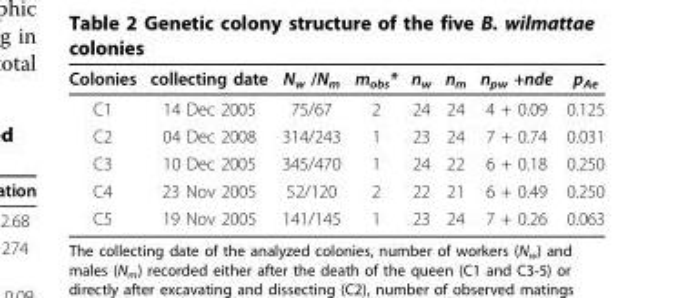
<table><thead><tr><td>Colonies</td><td>collecting date</td><td>N<sub>w</sub> /N<sub>m</sub></td><td>m<sub>obs</sub>*</td><td>n<sub>w</sub></td><td>n<sub>m</sub></td><td>n<sub>pw</sub> +nde</td><td>p<sub>Ae</sub></td></tr></thead><tbody><tr><td>C1</td><td>14 Dec 2005</td><td>75/67</td><td>2</td><td>24</td><td>24</td><td>4 + 0.09</td><td>0.125</td></tr><tr><td>C2</td><td>04 Dec 2008</td><td>314/243</td><td>1</td><td>23</td><td>24</td><td>7 + 0.74</td><td>0.031</td></tr><tr><td>C3</td><td>10 Dec 2005</td><td>345/470</td><td>1</td><td>24</td><td>22</td><td>6 + 0.18</td><td>0.250</td></tr><tr><td>C4</td><td>23 Nov 2005</td><td>52/120</td><td>2</td><td>22</td><td>21</td><td>6 + 0.49</td><td>0.250</td></tr><tr><td>C5</td><td>19 Nov 2005</td><td>141/145</td><td>1</td><td>23</td><td>24</td><td>7 + 0.26</td><td>0.063</td></tr></tbody></table>